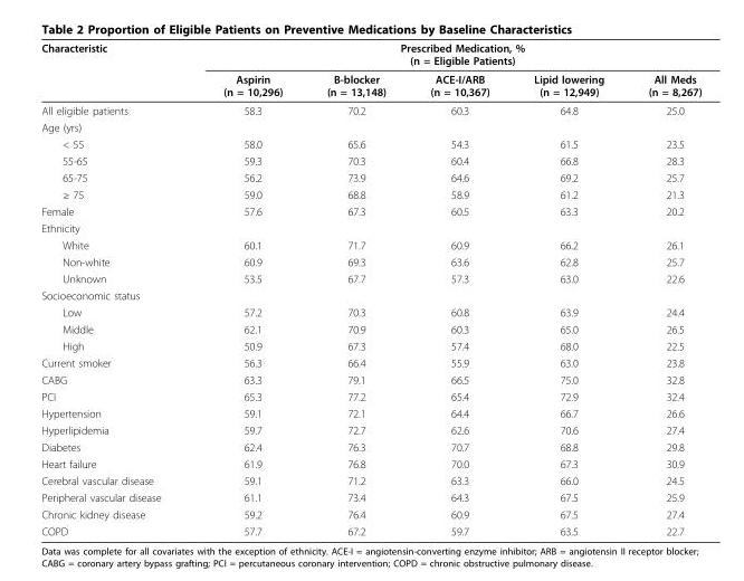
<table><thead><tr><td rowspan="2">Characteristic</td><td colspan="5">Prescribed Medication, % (n = Eligible Patients)</td></tr><tr><td>Aspirin (n = 10,296)</td><td>B-blocker (n = 13,148)</td><td>ACE-I/ARB (n = 10,367)</td><td>Lipid lowering (n = 12,949)</td><td>All Meds (n = 8,267)</td></tr></thead><tbody><tr><td>All eligible patients</td><td>58.3</td><td>70.2</td><td>60.3</td><td>64.8</td><td>25.0</td></tr><tr><td colspan="6">Age (yrs)</td></tr><tr><td>&lt; 55</td><td>58.0</td><td>65.6</td><td>54.3</td><td>61.5</td><td>23.5</td></tr><tr><td>55-65</td><td>59.3</td><td>70.3</td><td>60.4</td><td>66.8</td><td>28.3</td></tr><tr><td>65-75</td><td>56.2</td><td>73.9</td><td>64.6</td><td>69.2</td><td>25.7</td></tr><tr><td>≥ 75</td><td>59.0</td><td>68.8</td><td>58.9</td><td>61.2</td><td>21.3</td></tr><tr><td>Female</td><td>57.6</td><td>67.3</td><td>60.5</td><td>63.3</td><td>20.2</td></tr><tr><td colspan="6">Ethnicity</td></tr><tr><td>White</td><td>60.1</td><td>71.7</td><td>60.9</td><td>66.2</td><td>26.1</td></tr><tr><td>Non-white</td><td>60.9</td><td>69.3</td><td>63.6</td><td>62.8</td><td>25.7</td></tr><tr><td>Unknown</td><td>53.5</td><td>67.7</td><td>57.3</td><td>63.0</td><td>22.6</td></tr><tr><td colspan="6">Socioeconomic status</td></tr><tr><td>Low</td><td>57.2</td><td>70.3</td><td>60.8</td><td>63.9</td><td>24.4</td></tr><tr><td>Middle</td><td>62.1</td><td>70.9</td><td>60.3</td><td>65.0</td><td>26.5</td></tr><tr><td>High</td><td>50.9</td><td>67.3</td><td>57.4</td><td>68.0</td><td>22.5</td></tr><tr><td>Current smoker</td><td>56.3</td><td>66.4</td><td>55.9</td><td>63.0</td><td>23.8</td></tr><tr><td>CABG</td><td>63.3</td><td>79.1</td><td>66.5</td><td>75.0</td><td>32.8</td></tr><tr><td>PCI</td><td>65.3</td><td>77.2</td><td>65.4</td><td>72.9</td><td>32.4</td></tr><tr><td>Hypertension</td><td>59.1</td><td>72.1</td><td>64.4</td><td>66.7</td><td>26.6</td></tr><tr><td>Hyperlipidemia</td><td>59.7</td><td>72.7</td><td>62.6</td><td>70.6</td><td>27.4</td></tr><tr><td>Diabetes</td><td>62.4</td><td>76.3</td><td>70.7</td><td>68.8</td><td>29.8</td></tr><tr><td>Heart failure</td><td>61.9</td><td>76.8</td><td>70.0</td><td>67.3</td><td>30.9</td></tr><tr><td>Cerebral vascular disease</td><td>59.1</td><td>71.2</td><td>63.3</td><td>66.0</td><td>24.5</td></tr><tr><td>Peripheral vascular disease</td><td>61.1</td><td>73.4</td><td>64.3</td><td>67.5</td><td>25.9</td></tr><tr><td>Chronic kidney disease</td><td>59.2</td><td>76.4</td><td>60.9</td><td>67.5</td><td>27.4</td></tr><tr><td>COPD</td><td>57.7</td><td>67.2</td><td>59.7</td><td>63.5</td><td>22.7</td></tr></tbody></table>